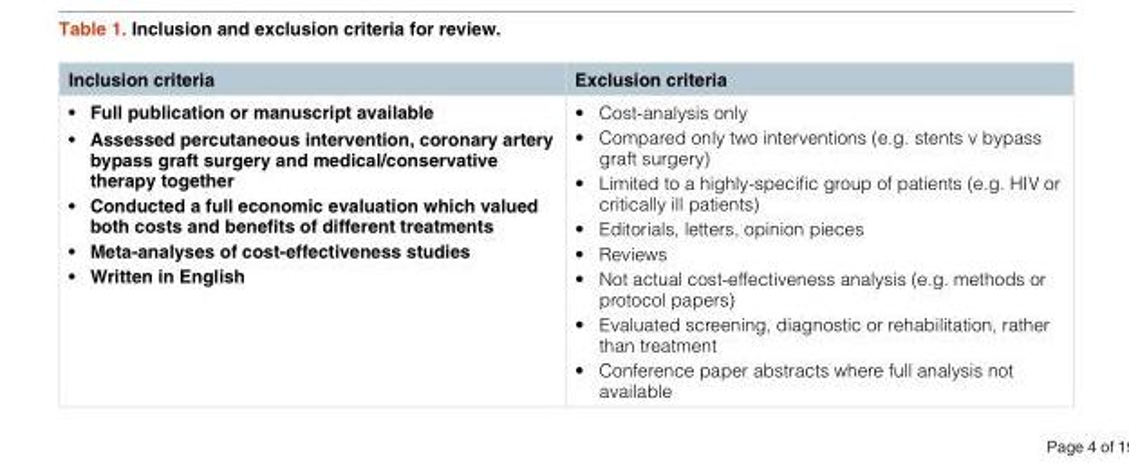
<table><thead><tr><td>Inclusion criteria</td><td>Exclusion criteria</td></tr></thead><tbody><tr><td>• Full publication or manuscript available • Assessed percutaneous intervention, coronary artery bypass graft surgery and medical/conservative therapy together • Conducted a full economic evaluation which valued both costs and benefits of different treatments • Meta-analyses of cost-effectiveness studies • Written in English</td><td>• Cost-analysis only • Compared only two interventions (e.g. stents v bypass graft surgery) • Limited to a highly-specific group of patients (e.g. HIV or critically ill patients) • Editorials, letters, opinion pieces • Reviews • Not actual cost-effectiveness analysis (e.g. methods or protocol papers) • Evaluated screening, diagnostic or rehabilitation, rather than treatment • Conference paper abstracts where full analysis not available</td></tr></tbody></table>